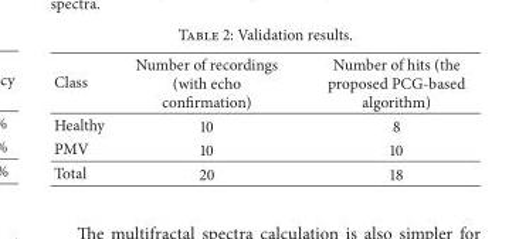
<table><thead><tr><td>Class</td><td>Number of recordings (with echo confirmation)</td><td>Number of hits (the proposed PCG-based algorithm)</td></tr></thead><tbody><tr><td>Healthy</td><td>10</td><td>8</td></tr><tr><td>PMV</td><td>10</td><td>10</td></tr><tr><td>Total</td><td>20</td><td>18</td></tr></tbody></table>